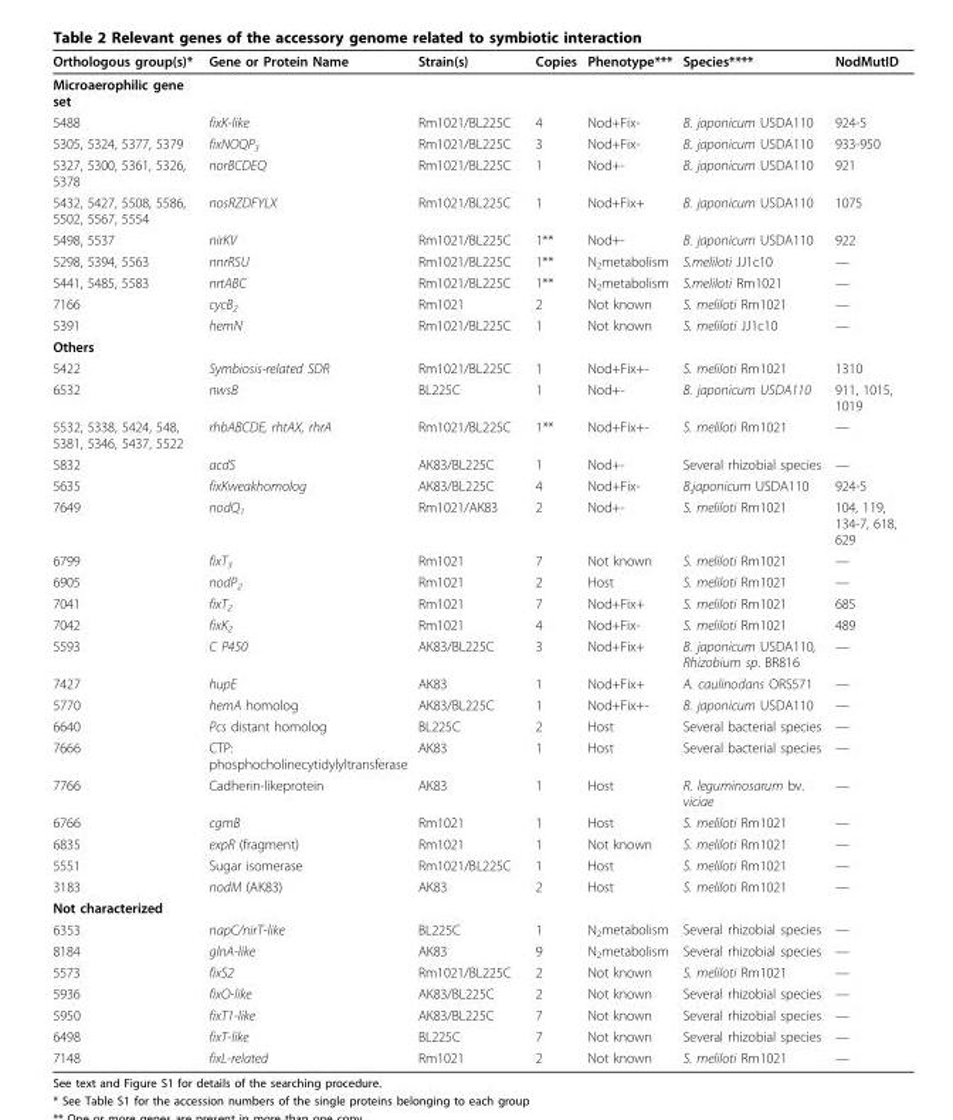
<table><thead><tr><td>Orthologous group(s)*</td><td>Gene or Protein Name</td><td>Strain(s)</td><td>Copies</td><td>Phenotype***</td><td>Species****</td><td>NodMutID</td></tr></thead><tbody><tr><td colspan="7">Microaerophilic gene set</td></tr><tr><td>5488</td><td>fixK-like</td><td>Rm1021/BL225C</td><td>4</td><td>Nod+Fix-</td><td>B. japonicum USDA110</td><td>924-5</td></tr><tr><td>5305, 5324, 5377, 5379</td><td>fixNOQP<sub>3</sub></td><td>Rm1021/BL225C</td><td>3</td><td>Nod+Fix-</td><td>B. japonicum USDA110</td><td>933-950</td></tr><tr><td>5327, 5300, 5361, 5326, 5378</td><td>norBCDEQ</td><td>Rm1021/BL225C</td><td>1</td><td>Nod+-</td><td>B. japonicum USDA110</td><td>921</td></tr><tr><td>5432, 5427, 5508, 5586, 5502, 5567, 5554</td><td>nosRZDFYLX</td><td>Rm1021/BL225C</td><td>1</td><td>Nod+Fix+</td><td>B. japonicum USDA110</td><td>1075</td></tr><tr><td>5498, 5537</td><td>nirKV</td><td>Rm1021/BL225C</td><td>1**</td><td>Nod+-</td><td>B. japonicum USDA110</td><td>922</td></tr><tr><td>5298, 5394, 5563</td><td>nnrRSU</td><td>Rm1021/BL225C</td><td>1**</td><td>N<sub>2</sub>metabolism</td><td>S.meliloti JJ1c10</td><td>—</td></tr><tr><td>5441, 5485, 5583</td><td>nrtABC</td><td>Rm1021/BL225C</td><td>1**</td><td>N<sub>2</sub>metabolism</td><td>S.meliloti Rm1021</td><td>—</td></tr><tr><td>7166</td><td>cycB<sub>2</sub></td><td>Rm1021</td><td>2</td><td>Not known</td><td>S. meliloti Rm1021</td><td>—</td></tr><tr><td>5391</td><td>hemN</td><td>Rm1021/BL225C</td><td>1</td><td>Not known</td><td>S. meliloti JJ1c10</td><td>—</td></tr><tr><td colspan="7">Others</td></tr><tr><td>5422</td><td>Symbiosis-related SDR</td><td>Rm1021/BL225C</td><td>1</td><td>Nod+Fix+-</td><td>S. meliloti Rm1021</td><td>1310</td></tr><tr><td>6532</td><td>nwsB</td><td>BL225C</td><td>1</td><td>Nod+-</td><td>B. japonicum USDA110</td><td>911, 1015, 1019</td></tr><tr><td>5532, 5338, 5424, 548, 5381, 5346, 5437, 5522</td><td>rhbABCDE, rhtAX, rhrA</td><td>Rm1021/BL225C</td><td>1**</td><td>Nod+Fix+-</td><td>S. meliloti Rm1021</td><td>—</td></tr><tr><td>5832</td><td>acdS</td><td>AK83/BL225C</td><td>1</td><td>Nod+-</td><td>Several rhizobial species</td><td>—</td></tr><tr><td>5635</td><td>fixKweakhomolog</td><td>AK83/BL225C</td><td>4</td><td>Nod+Fix-</td><td>B.japonicum USDA110</td><td>924-5</td></tr><tr><td>7649</td><td>nodQ<sub>1</sub></td><td>Rm1021/AK83</td><td>2</td><td>Nod+-</td><td>S. meliloti Rm1021</td><td>104, 119, 134-7, 618, 629</td></tr><tr><td>6799</td><td>fixT<sub>3</sub></td><td>Rm1021</td><td>7</td><td>Not known</td><td>S. meliloti Rm1021</td><td>—</td></tr><tr><td>6905</td><td>nodP<sub>2</sub></td><td>Rm1021</td><td>2</td><td>Host</td><td>S. meliloti Rm1021</td><td>—</td></tr><tr><td>7041</td><td>fixT<sub>2</sub></td><td>Rm1021</td><td>7</td><td>Nod+Fix+</td><td>S. meliloti Rm1021</td><td>685</td></tr><tr><td>7042</td><td>fixK<sub>2</sub></td><td>Rm1021</td><td>4</td><td>Nod+Fix-</td><td>S. meliloti Rm1021</td><td>489</td></tr><tr><td>5593</td><td>C P450</td><td>AK83/BL225C</td><td>3</td><td>Nod+Fix+</td><td>B. japonicum USDA110, Rhizobium sp. BR816</td><td>—</td></tr><tr><td>7427</td><td>hupE</td><td>AK83</td><td>1</td><td>Nod+Fix+</td><td>A. caulinodans ORS571</td><td>—</td></tr><tr><td>5770</td><td>hemA homolog</td><td>AK83/BL225C</td><td>1</td><td>Nod+Fix+-</td><td>B. japonicum USDA110</td><td>—</td></tr><tr><td>6640</td><td>Pcs distant homolog</td><td>BL225C</td><td>2</td><td>Host</td><td>Several bacterial species</td><td>—</td></tr><tr><td>7666</td><td>CTP: phosphocholinecytidylyltransferase</td><td>AK83</td><td>1</td><td>Host</td><td>Several bacterial species</td><td>—</td></tr><tr><td>7766</td><td>Cadherin-likeprotein</td><td>AK83</td><td>1</td><td>Host</td><td>R. leguminosarum bv. viciae</td><td>—</td></tr><tr><td>6766</td><td>cgmB</td><td>Rm1021</td><td>1</td><td>Host</td><td>S. meliloti Rm1021</td><td>—</td></tr><tr><td>6835</td><td>expR (fragment)</td><td>Rm1021</td><td>1</td><td>Not known</td><td>S. meliloti Rm1021</td><td>—</td></tr><tr><td>5551</td><td>Sugar isomerase</td><td>Rm1021/BL225C</td><td>1</td><td>Host</td><td>S. meliloti Rm1021</td><td>—</td></tr><tr><td>3183</td><td>nodM (AK83)</td><td>AK83</td><td>2</td><td>Host</td><td>S. meliloti Rm1021</td><td>—</td></tr><tr><td colspan="7">Not characterized</td></tr><tr><td>6353</td><td>napC/nirT-like</td><td>BL225C</td><td>1</td><td>N<sub>2</sub>metabolism</td><td>Several rhizobial species</td><td>—</td></tr><tr><td>8184</td><td>glnA-like</td><td>AK83</td><td>9</td><td>N<sub>2</sub>metabolism</td><td>Several rhizobial species</td><td>—</td></tr><tr><td>5573</td><td>fixS2</td><td>Rm1021/BL225C</td><td>2</td><td>Not known</td><td>S. meliloti Rm1021</td><td>—</td></tr><tr><td>5936</td><td>fixO-like</td><td>AK83/BL225C</td><td>2</td><td>Not known</td><td>Several rhizobial species</td><td>—</td></tr><tr><td>5950</td><td>fixT1-like</td><td>AK83/BL225C</td><td>7</td><td>Not known</td><td>Several rhizobial species</td><td>—</td></tr><tr><td>6498</td><td>fixT-like</td><td>BL225C</td><td>7</td><td>Not known</td><td>Several rhizobial species</td><td>—</td></tr><tr><td>7148</td><td>fixL-related</td><td>Rm1021</td><td>2</td><td>Not known</td><td>S. meliloti Rm1021</td><td>—</td></tr></tbody></table>